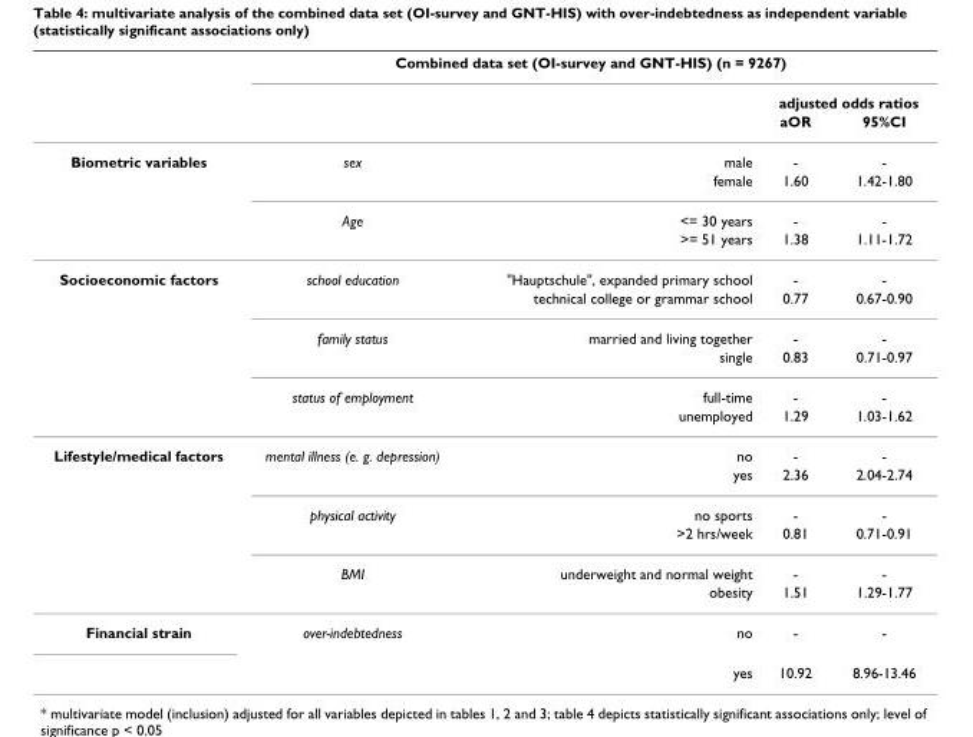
<table><thead><tr><td rowspan="3"></td><td colspan="4">Combined data set (OI-survey and GNT-HIS) (n = 9267)</td></tr><tr><td rowspan="2"></td><td rowspan="2"></td><td colspan="2">adjusted odds ratios</td></tr><tr><td>aOR</td><td>95%CI</td></tr></thead><tbody><tr><td rowspan="4">Biometric variables</td><td>sex</td><td>male</td><td>-</td><td>-</td></tr><tr><td></td><td>female</td><td>1.60</td><td>1.42-1.80</td></tr><tr><td>Age</td><td>&lt;= 30 years</td><td>-</td><td>-</td></tr><tr><td></td><td>&gt;= 51 years</td><td>1.38</td><td>1.11-1.72</td></tr><tr><td rowspan="6">Socioeconomic factors</td><td>school education</td><td>&quot;Hauptschule&quot;, expanded primary school</td><td>-</td><td>-</td></tr><tr><td></td><td>technical college or grammar school</td><td>0.77</td><td>0.67-0.90</td></tr><tr><td>family status</td><td>married and living together</td><td>-</td><td>-</td></tr><tr><td></td><td>single</td><td>0.83</td><td>0.71-0.97</td></tr><tr><td>status of employment</td><td>full-time</td><td>-</td><td>-</td></tr><tr><td></td><td>unemployed</td><td>1.29</td><td>1.03-1.62</td></tr><tr><td rowspan="6">Lifestyle/medical factors</td><td>mental illness (e. g. depression)</td><td>no</td><td>-</td><td>-</td></tr><tr><td></td><td>yes</td><td>2.36</td><td>2.04-2.74</td></tr><tr><td>physical activity</td><td>no sports</td><td>-</td><td>-</td></tr><tr><td></td><td>&gt;2 hrs/week</td><td>0.81</td><td>0.71-0.91</td></tr><tr><td>BMI</td><td>underweight and normal weight</td><td>-</td><td>-</td></tr><tr><td></td><td>obesity</td><td>1.51</td><td>1.29-1.77</td></tr><tr><td rowspan="2">Financial strain</td><td>over-indebtedness</td><td>no</td><td>-</td><td>-</td></tr><tr><td></td><td>yes</td><td>10.92</td><td>8.96-13.46</td></tr></tbody></table>